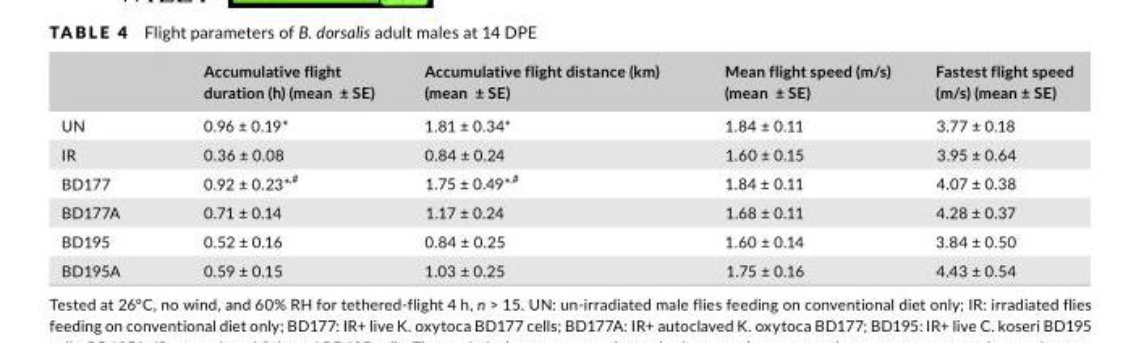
<table><thead><tr><td></td><td>Accumulative flight duration (h) (mean ± SE)</td><td>Accumulative flight distance (km) (mean ± SE)</td><td>Mean flight speed (m/s) (mean ± SE)</td><td>Fastest flight speed (m/s) (mean ± SE)</td></tr></thead><tbody><tr><td>UN</td><td>0.96 ± 0.19*</td><td>1.81 ± 0.34*</td><td>1.84 ± 0.11</td><td>3.77 ± 0.18</td></tr><tr><td>IR</td><td>0.36 ± 0.08</td><td>0.84 ± 0.24</td><td>1.60 ± 0.15</td><td>3.95 ± 0.64</td></tr><tr><td>BD177</td><td>0.92 ± 0.23*<sup>,</sup>#</td><td>1.75 ± 0.49*<sup>,</sup>#</td><td>1.84 ± 0.11</td><td>4.07 ± 0.38</td></tr><tr><td>BD177A</td><td>0.71 ± 0.14</td><td>1.17 ± 0.24</td><td>1.68 ± 0.11</td><td>4.28 ± 0.37</td></tr><tr><td>BD195</td><td>0.52 ± 0.16</td><td>0.84 ± 0.25</td><td>1.60 ± 0.14</td><td>3.84 ± 0.50</td></tr><tr><td>BD195A</td><td>0.59 ± 0.15</td><td>1.03 ± 0.25</td><td>1.75 ± 0.16</td><td>4.43 ± 0.54</td></tr></tbody></table>